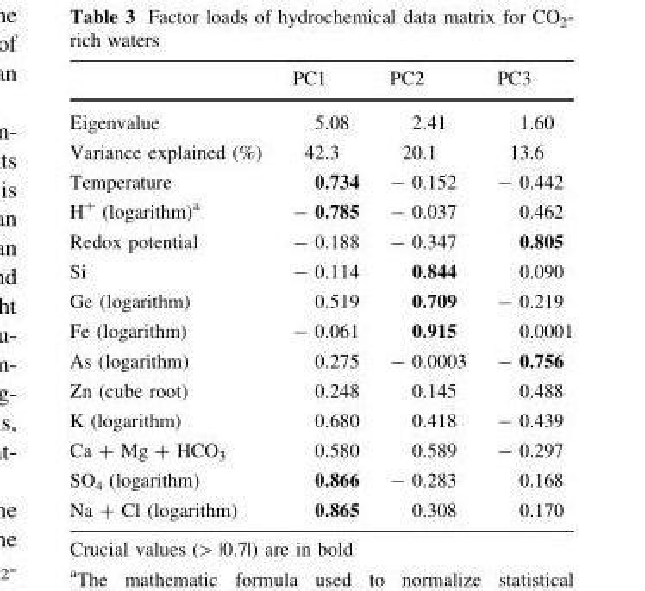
<table><thead><tr><td></td><td>PC1</td><td>PC2</td><td>PC3</td></tr></thead><tbody><tr><td>Eigenvalue</td><td>5.08</td><td>2.41</td><td>1.60</td></tr><tr><td>Variance explained (%)</td><td>42.3</td><td>20.1</td><td>13.6</td></tr><tr><td>Temperature</td><td>0.734</td><td>- 0.152</td><td>- 0.442</td></tr><tr><td>H<sup>+</sup> (logarithm)<sup>a</sup></td><td>- 0.785</td><td>- 0.037</td><td>0.462</td></tr><tr><td>Redox potential</td><td>- 0.188</td><td>- 0.347</td><td>0.805</td></tr><tr><td>Si</td><td>- 0.114</td><td>0.844</td><td>0.090</td></tr><tr><td>Ge (logarithm)</td><td>0.519</td><td>0.709</td><td>- 0.219</td></tr><tr><td>Fe (logarithm)</td><td>- 0.061</td><td>0.915</td><td>0.0001</td></tr><tr><td>As (logarithm)</td><td>0.275</td><td>- 0.0003</td><td>- 0.756</td></tr><tr><td>Zn (cube root)</td><td>0.248</td><td>0.145</td><td>0.488</td></tr><tr><td>K (logarithm)</td><td>0.680</td><td>0.418</td><td>- 0.439</td></tr><tr><td>Ca + Mg + HCO<sub>3</sub></td><td>0.580</td><td>0.589</td><td>- 0.297</td></tr><tr><td>SO<sub>4</sub> (logarithm)</td><td>0.866</td><td>- 0.283</td><td>0.168</td></tr><tr><td>Na + Cl (logarithm)</td><td>0.865</td><td>0.308</td><td>0.170</td></tr></tbody></table>